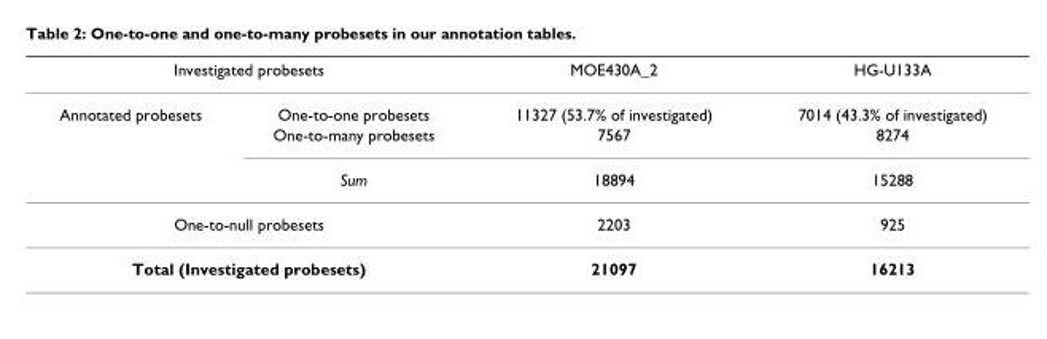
<table><thead><tr><td colspan="2">Investigated probesets</td><td rowspan="2">MOE430A_2 11327 (53.7% of investigated)</td><td rowspan="2">HG-U133A 7014 (43.3% of investigated)</td></tr><tr><td>Annotated probesets</td><td>One-to-one probesets</td></tr></thead><tbody><tr><td></td><td>One-to-many probesets</td><td>7567</td><td>8274</td></tr><tr><td></td><td>Sum</td><td>18894</td><td>15288</td></tr><tr><td colspan="2">One-to-null probesets</td><td>2203</td><td>925</td></tr><tr><td colspan="2">Total (Investigated probesets)</td><td>21097</td><td>16213</td></tr></tbody></table>